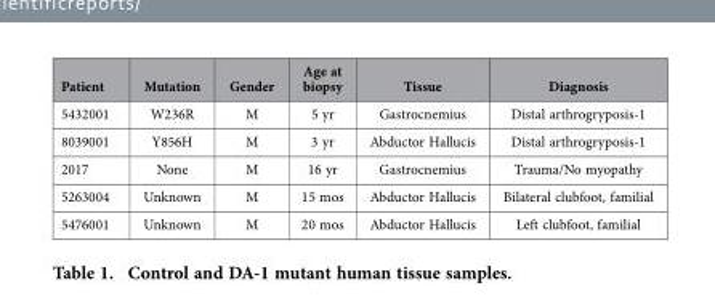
<table><thead><tr><td>Patient</td><td>Mutation</td><td>Gender</td><td>Age at biopsy</td><td>Tissue</td><td>Diagnosis</td></tr></thead><tbody><tr><td>5432001</td><td>W236R</td><td>M</td><td>5 yr</td><td>Gastrocnemius</td><td>Distal arthrogryposis-1</td></tr><tr><td>8039001</td><td>Y856H</td><td>M</td><td>3 yr</td><td>Abductor Hallucis</td><td>Distal arthrogryposis-1</td></tr><tr><td>2017</td><td>None</td><td>M</td><td>16 yr</td><td>Gastrocnemius</td><td>Trauma/No myopathy</td></tr><tr><td>5263004</td><td>Unknown</td><td>M</td><td>15 mos</td><td>Abductor Hallucis</td><td>Bilateral clubfoot, familial</td></tr><tr><td>5476001</td><td>Unknown</td><td>M</td><td>20 mos</td><td>Abductor Hallucis</td><td>Left clubfoot, familial</td></tr></tbody></table>